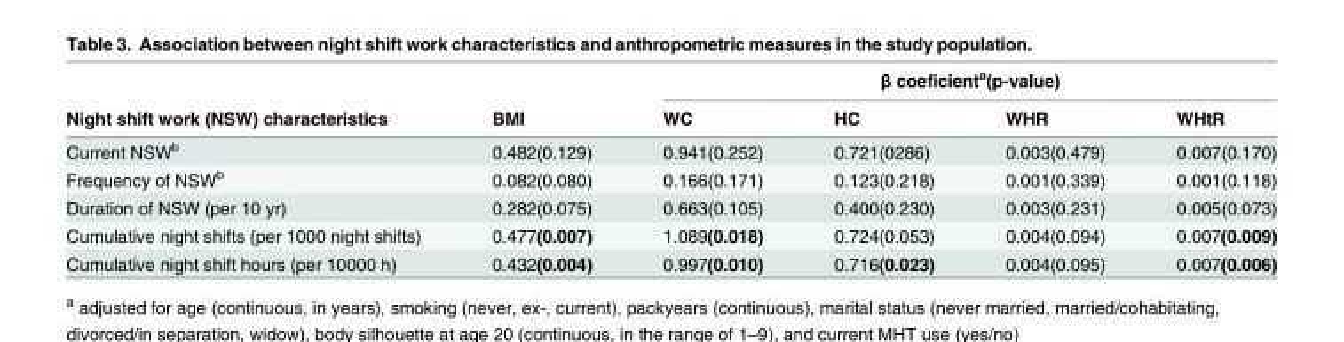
<table><thead><tr><td rowspan="2">Night shift work (NSW) characteristics</td><td rowspan="2">BMI</td><td colspan="4">β coeficient<sup>a</sup>(p-value)</td></tr><tr><td>WC</td><td>HC</td><td>WHR</td><td>WHtR</td></tr></thead><tbody><tr><td>Current NSW<sup>b</sup></td><td>0.482(0.129)</td><td>0.941(0.252)</td><td>0.721(0286)</td><td>0.003(0.479)</td><td>0.007(0.170)</td></tr><tr><td>Frequency of NSW<sup>b</sup></td><td>0.082(0.080)</td><td>0.166(0.171)</td><td>0.123(0.218)</td><td>0.001(0.339)</td><td>0.001(0.118)</td></tr><tr><td>Duration of NSW (per 10 yr)</td><td>0.282(0.075)</td><td>0.663(0.105)</td><td>0.400(0.230)</td><td>0.003(0.231)</td><td>0.005(0.073)</td></tr><tr><td>Cumulative night shifts (per 1000 night shifts)</td><td>0.477(0.007)</td><td>1.089(0.018)</td><td>0.724(0.053)</td><td>0.004(0.094)</td><td>0.007(0.009)</td></tr><tr><td>Cumulative night shift hours (per 10000 h)</td><td>0.432(0.004)</td><td>0.997(0.010)</td><td>0.716(0.023)</td><td>0.004(0.095)</td><td>0.007(0.006)</td></tr></tbody></table>